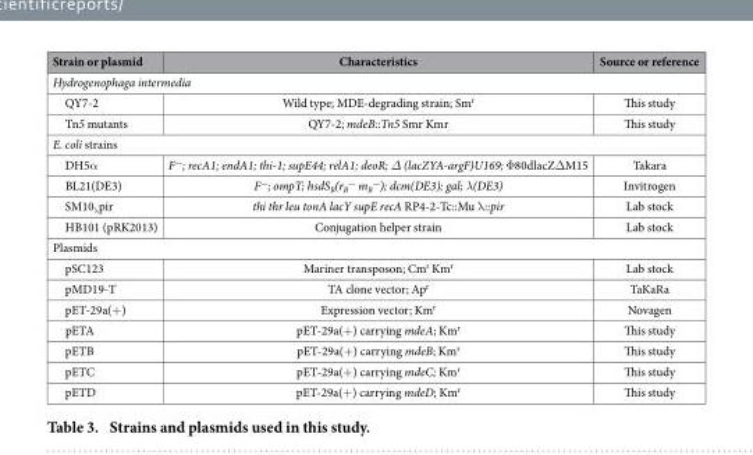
<table><thead><tr><td>Strain or plasmid</td><td>Characteristics</td><td>Source or reference</td></tr></thead><tbody><tr><td colspan="3">Hydrogenophaga intermedia</td></tr><tr><td>QY7-2</td><td>Wild type; MDE-degrading strain; Sm<sup>r</sup></td><td>This study</td></tr><tr><td>Tn5 mutants</td><td>QY7-2; mdeB::Tn5 Smr Kmr</td><td>This study</td></tr><tr><td colspan="3">E. coli strains</td></tr><tr><td>DH5α</td><td>F<sup>—</sup>; recA1; endA1; thi-1; supE44; relA1; deoR; Δ (lacZYA-argF)U169; Φ 80dlacZΔ M15</td><td>Takara</td></tr><tr><td>BL21(DE3)</td><td>F—; ompT; hsdSB(rB — mB —); dcm(DE3); gal; λ(DE3)</td><td>Invitrogen</td></tr><tr><td>SM10<sub>λ</sub>pir</td><td>thi thr leu tonA lacY supE recA RP4-2-Tc::Mu λ ::pir</td><td>Lab stock</td></tr><tr><td>HB101 (pRK2013)</td><td>Conjugation helper strain</td><td>Lab stock</td></tr><tr><td colspan="3">Plasmids</td></tr><tr><td>pSC123</td><td>Mariner transposon; Cm<sup>r</sup> Km<sup>r</sup></td><td>Lab stock</td></tr><tr><td>pMD19-T</td><td>TA clone vector; Ap<sup>r</sup></td><td>TaKaRa</td></tr><tr><td>pET-29a(+ )</td><td>Expression vector; Km<sup>r</sup></td><td>Novagen</td></tr><tr><td>pETA</td><td>pET-29a(+ ) carrying mdeA; Km<sup>r</sup></td><td>This study</td></tr><tr><td>pETB</td><td>pET-29a(+ ) carrying mdeB; Km<sup>r</sup></td><td>This study</td></tr><tr><td>pETC</td><td>pET-29a(+ ) carrying mdeC; Km<sup>r</sup></td><td>This study</td></tr><tr><td>pETD</td><td>pET-29a(+ ) carrying mdeD; Km<sup>r</sup></td><td>This study</td></tr></tbody></table>